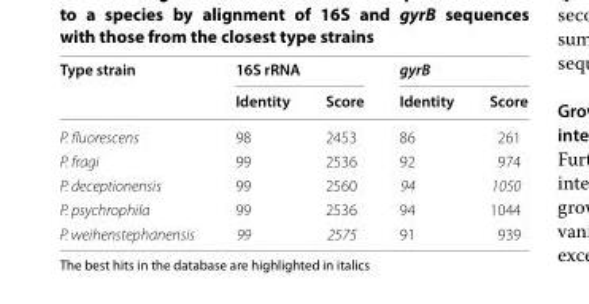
<table><thead><tr><td rowspan="2">Type strain</td><td colspan="2">16S rRNA</td><td colspan="2">gyrB</td></tr><tr><td>Identity</td><td>Score</td><td>Identity</td><td>Score</td></tr></thead><tbody><tr><td>P. fluorescens</td><td>98</td><td>2453</td><td>86</td><td>261</td></tr><tr><td>P. fragi</td><td>99</td><td>2536</td><td>92</td><td>974</td></tr><tr><td>P. deceptionensis</td><td>99</td><td>2560</td><td>94</td><td>1050</td></tr><tr><td>P. psychrophila</td><td>99</td><td>2536</td><td>94</td><td>1044</td></tr><tr><td>P. weihenstephanensis</td><td>99</td><td>2575</td><td>91</td><td>939</td></tr></tbody></table>